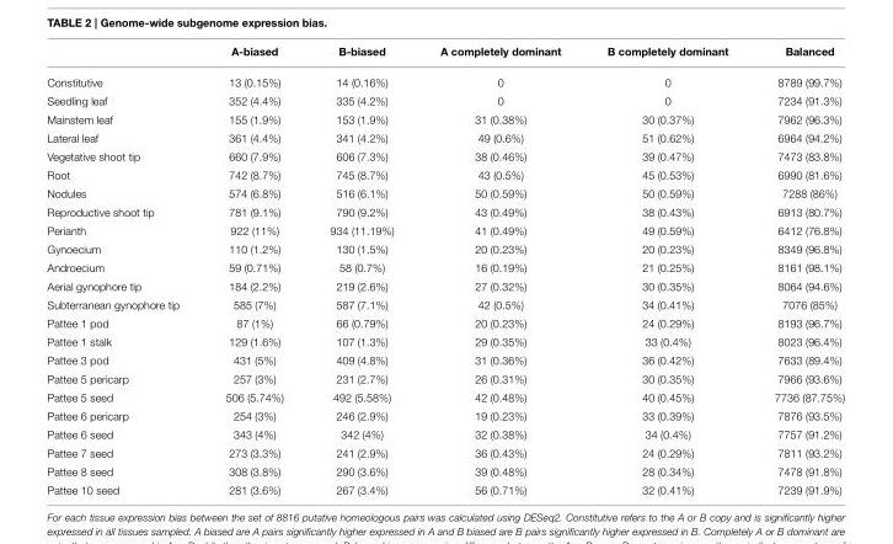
<table><thead><tr><td></td><td>A-biased</td><td>B-biased</td><td>A completely dominant</td><td>B completely dominant</td><td>Balanced</td></tr></thead><tbody><tr><td>Constitutive</td><td>13 (0.15%)</td><td>14 (0.16%)</td><td>0</td><td>0</td><td>8789 (99.7%)</td></tr><tr><td>Seedling leaf</td><td>352 (4.4%)</td><td>335 (4.2%)</td><td>0</td><td>0</td><td>7234 (91.3%)</td></tr><tr><td>Mainstem leaf</td><td>155 (1.9%)</td><td>153 (1.9%)</td><td>31 (0.38%)</td><td>30 (0.37%)</td><td>7962 (96.3%)</td></tr><tr><td>Lateral leaf</td><td>361 (4.4%)</td><td>341 (4.2%)</td><td>49 (0.6%)</td><td>51 (0.62%)</td><td>6964 (94.2%)</td></tr><tr><td>Vegetative shoot tip</td><td>660 (7.9%)</td><td>606 (7.3%)</td><td>38 (0.46%)</td><td>39 (0.47%)</td><td>7473 (83.8%)</td></tr><tr><td>Root</td><td>742 (8.7%)</td><td>745 (8.7%)</td><td>43 (0.5%)</td><td>45 (0.53%)</td><td>6990 (81.6%)</td></tr><tr><td>Nodules</td><td>574 (6.8%)</td><td>516 (6.1%)</td><td>50 (0.59%)</td><td>50 (0.59%)</td><td>7288 (86%)</td></tr><tr><td>Reproductive shoot tip</td><td>781 (9.1%)</td><td>790 (9.2%)</td><td>43 (0.49%)</td><td>38 (0.43%)</td><td>6913 (80.7%)</td></tr><tr><td>Perianth</td><td>922 (11%)</td><td>934 (11.19%)</td><td>41 (0.49%)</td><td>49 (0.59%)</td><td>6412 (76.8%)</td></tr><tr><td>Gynoecium</td><td>110 (1.2%)</td><td>130 (1.5%)</td><td>20 (0.23%)</td><td>20 (0.23%)</td><td>8349 (96.8%)</td></tr><tr><td>Androecium</td><td>59 (0.71%)</td><td>58 (0.7%)</td><td>16 (0.19%)</td><td>21 (0.25%)</td><td>8161 (98.1%)</td></tr><tr><td>Aerial gynophore tip</td><td>184 (2.2%)</td><td>219 (2.6%)</td><td>27 (0.32%)</td><td>30 (0.35%)</td><td>8064 (94.6%)</td></tr><tr><td>Subterranean gynophore tip</td><td>585 (7%)</td><td>587 (7.1%)</td><td>42 (0.5%)</td><td>34 (0.41%)</td><td>7076 (85%)</td></tr><tr><td>Pattee 1 pod</td><td>87 (1%)</td><td>66 (0.79%)</td><td>20 (0.23%)</td><td>24 (0.29%)</td><td>8193 (96.7%)</td></tr><tr><td>Pattee 1 stalk</td><td>129 (1.6%)</td><td>107 (1.3%)</td><td>29 (0.35%)</td><td>33 (0.4%)</td><td>8023 (96.4%)</td></tr><tr><td>Pattee 3 pod</td><td>431 (5%)</td><td>409 (4.8%)</td><td>31 (0.36%)</td><td>36 (0.42%)</td><td>7633 (89.4%)</td></tr><tr><td>Pattee 5 pericarp</td><td>257 (3%)</td><td>231 (2.7%)</td><td>26 (0.31%)</td><td>30 (0.35%)</td><td>7966 (93.6%)</td></tr><tr><td>Pattee 5 seed</td><td>506 (5.74%)</td><td>492 (5.58%)</td><td>42 (0.48%)</td><td>40 (0.45%)</td><td>7736 (87.75%)</td></tr><tr><td>Pattee 6 pericarp</td><td>254 (3%)</td><td>246 (2.9%)</td><td>19 (0.23%)</td><td>33 (0.39%)</td><td>7876 (93.5%)</td></tr><tr><td>Pattee 6 seed</td><td>343 (4%)</td><td>342 (4%)</td><td>32 (0.38%)</td><td>34 (0.4%)</td><td>7757 (91.2%)</td></tr><tr><td>Pattee 7 seed</td><td>273 (3.3%)</td><td>241 (2.9%)</td><td>36 (0.43%)</td><td>24 (0.29%)</td><td>7811 (93.2%)</td></tr><tr><td>Pattee 8 seed</td><td>308 (3.8%)</td><td>290 (3.6%)</td><td>39 (0.48%)</td><td>28 (0.34%)</td><td>7478 (91.8%)</td></tr><tr><td>Pattee 10 seed</td><td>281 (3.6%)</td><td>267 (3.4%)</td><td>56 (0.71%)</td><td>32 (0.41%)</td><td>7239 (91.9%)</td></tr></tbody></table>